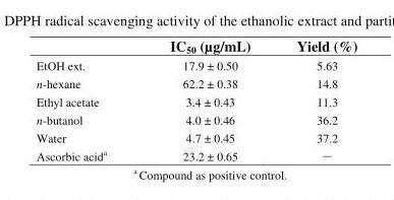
<table><thead><tr><td></td><td>IC<sub>50</sub> (µg/mL)</td><td>Yield (%)</td></tr></thead><tbody><tr><td>EtOH ext.</td><td>17.9 ± 0.50</td><td>5.63</td></tr><tr><td>n-hexane</td><td>62.2 ± 0.38</td><td>14.8</td></tr><tr><td>Ethyl acetate</td><td>3.4 ± 0.43</td><td>11.3</td></tr><tr><td>n-butanol</td><td>4.0 ± 0.46</td><td>36.2</td></tr><tr><td>Water</td><td>4.7 ± 0.45</td><td>37.2</td></tr><tr><td>Ascorbic acid<sup>a</sup></td><td>23.2 ± 0.65</td><td>－</td></tr></tbody></table>